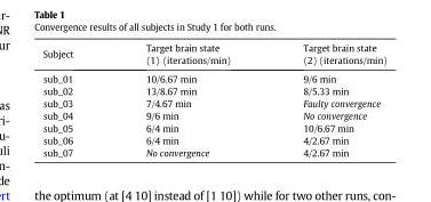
<table><thead><tr><td>Subject</td><td>Target brain state (1) (iterations/min)</td><td>Target brain state (2) (iterations/min)</td></tr></thead><tbody><tr><td>sub_01</td><td>10/6.67 min</td><td>9/6 min</td></tr><tr><td>sub_02</td><td>13/8.67 min</td><td>8/5.33 min</td></tr><tr><td>sub_03</td><td>7/4.67 min</td><td>Faulty convergence</td></tr><tr><td>sub_04</td><td>9/6 min</td><td>No convergence</td></tr><tr><td>sub_05</td><td>6/4 min</td><td>10/6.67 min</td></tr><tr><td>sub_06</td><td>6/4 min</td><td>4/2.67 min</td></tr><tr><td>sub_07</td><td>No convergence</td><td>4/2.67 min</td></tr></tbody></table>